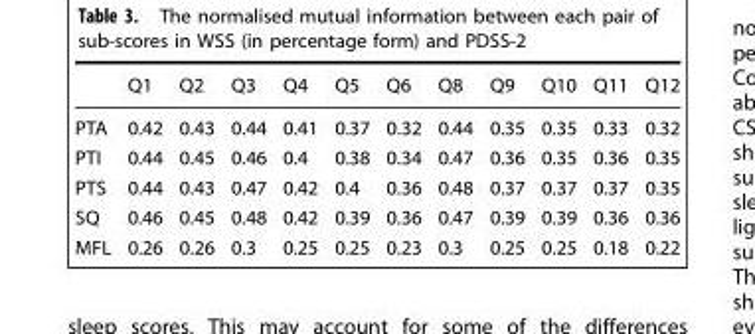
<table><thead><tr><td></td><td>Q1</td><td>Q2</td><td>Q3</td><td>Q4</td><td>Q5</td><td>Q6</td><td>Q8</td><td>Q9</td><td>Q10</td><td>Q11</td><td>Q12</td></tr></thead><tbody><tr><td>PTA</td><td>0.42</td><td>0.43</td><td>0.44</td><td>0.41</td><td>0.37</td><td>0.32</td><td>0.44</td><td>0.35</td><td>0.35</td><td>0.33</td><td>0.32</td></tr><tr><td>PTI</td><td>0.44</td><td>0.45</td><td>0.46</td><td>0.4</td><td>0.38</td><td>0.34</td><td>0.47</td><td>0.36</td><td>0.35</td><td>0.36</td><td>0.35</td></tr><tr><td>PTS</td><td>0.44</td><td>0.43</td><td>0.47</td><td>0.42</td><td>0.4</td><td>0.36</td><td>0.48</td><td>0.37</td><td>0.37</td><td>0.37</td><td>0.35</td></tr><tr><td>SQ</td><td>0.46</td><td>0.45</td><td>0.48</td><td>0.42</td><td>0.39</td><td>0.36</td><td>0.47</td><td>0.39</td><td>0.39</td><td>0.36</td><td>0.36</td></tr><tr><td>MFL</td><td>0.26</td><td>0.26</td><td>0.3</td><td>0.25</td><td>0.25</td><td>0.23</td><td>0.3</td><td>0.25</td><td>0.25</td><td>0.18</td><td>0.22</td></tr></tbody></table>